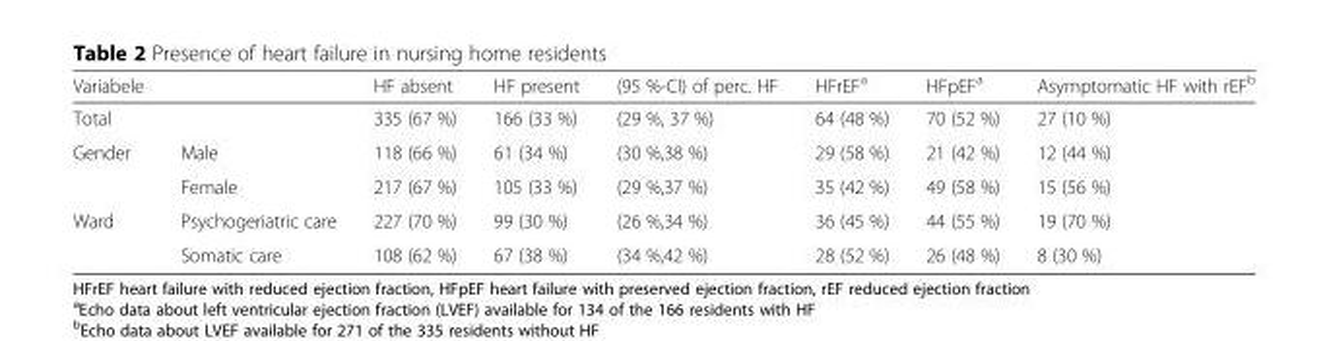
<table><thead><tr><td>Variabele</td><td></td><td>HF absent</td><td>HF present</td><td>(95 %-CI) of perc. HF</td><td>HFrEF<sup>a</sup></td><td>HFpEF<sup>a</sup></td><td>Asymptomatic HF with rEF<sup>b</sup></td></tr></thead><tbody><tr><td>Total</td><td></td><td>335 (67 %)</td><td>166 (33 %)</td><td>(29 %, 37 %)</td><td>64 (48 %)</td><td>70 (52 %)</td><td>27 (10 %)</td></tr><tr><td rowspan="2">Gender</td><td>Male</td><td>118 (66 %)</td><td>61 (34 %)</td><td>(30 %,38 %)</td><td>29 (58 %)</td><td>21 (42 %)</td><td>12 (44 %)</td></tr><tr><td>Female</td><td>217 (67 %)</td><td>105 (33 %)</td><td>(29 %,37 %)</td><td>35 (42 %)</td><td>49 (58 %)</td><td>15 (56 %)</td></tr><tr><td rowspan="2">Ward</td><td>Psychogeriatric care</td><td>227 (70 %)</td><td>99 (30 %)</td><td>(26 %,34 %)</td><td>36 (45 %)</td><td>44 (55 %)</td><td>19 (70 %)</td></tr><tr><td>Somatic care</td><td>108 (62 %)</td><td>67 (38 %)</td><td>(34 %,42 %)</td><td>28 (52 %)</td><td>26 (48 %)</td><td>8 (30 %)</td></tr></tbody></table>